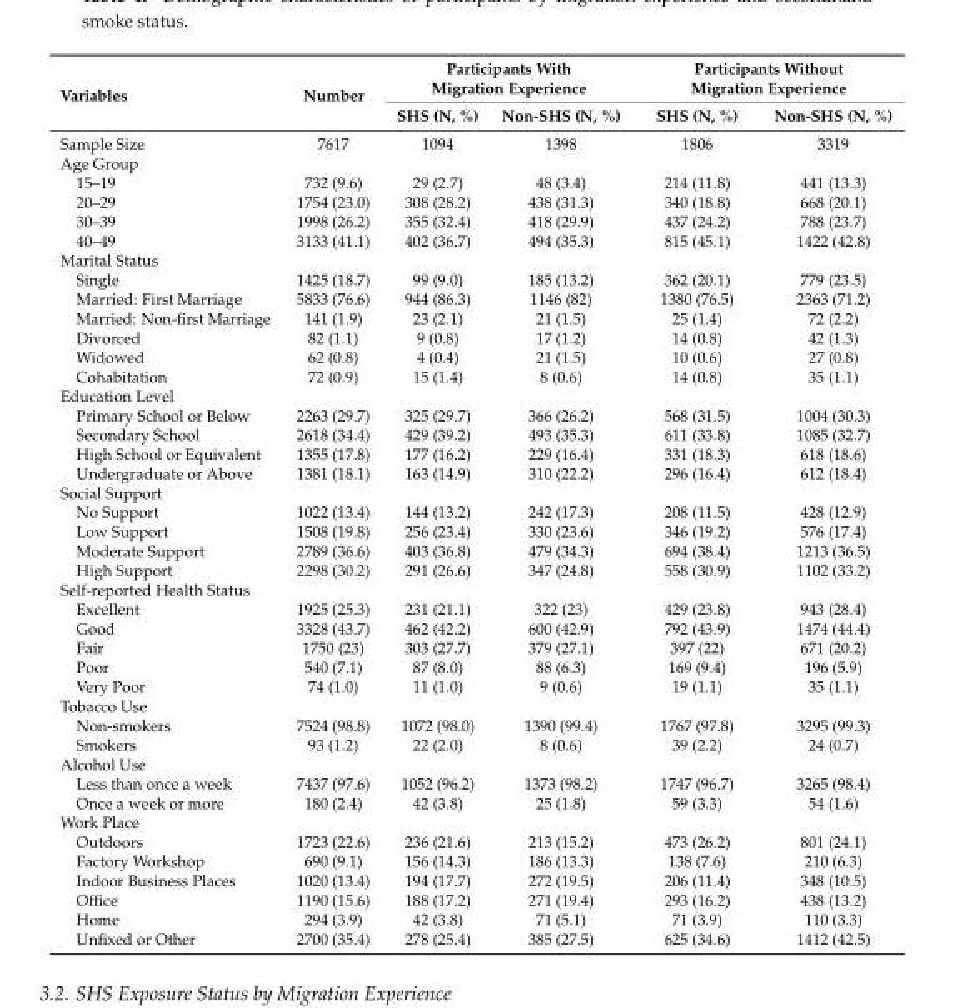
<table><thead><tr><td rowspan="2">Variables</td><td rowspan="2">Number</td><td colspan="2">Participants With Migration Experience</td><td colspan="2">Participants Without Migration Experience</td></tr><tr><td>SHS (N, %)</td><td>Non-SHS (N, %)</td><td>SHS (N, %)</td><td>Non-SHS (N, %)</td></tr></thead><tbody><tr><td>Sample Size</td><td>7617</td><td>1094</td><td>1398</td><td>1806</td><td>3319</td></tr><tr><td colspan="6">Age Group</td></tr><tr><td>15–19</td><td>732 (9.6)</td><td>29 (2.7)</td><td>48 (3.4)</td><td>214 (11.8)</td><td>441 (13.3)</td></tr><tr><td>20–29</td><td>1754 (23.0)</td><td>308 (28.2)</td><td>438 (31.3)</td><td>340 (18.8)</td><td>668 (20.1)</td></tr><tr><td>30–39</td><td>1998 (26.2)</td><td>355 (32.4)</td><td>418 (29.9)</td><td>437 (24.2)</td><td>788 (23.7)</td></tr><tr><td>40–49</td><td>3133 (41.1)</td><td>402 (36.7)</td><td>494 (35.3)</td><td>815 (45.1)</td><td>1422 (42.8)</td></tr><tr><td colspan="6">Marital Status</td></tr><tr><td>Single</td><td>1425 (18.7)</td><td>99 (9.0)</td><td>185 (13.2)</td><td>362 (20.1)</td><td>779 (23.5)</td></tr><tr><td>Married: First Marriage</td><td>5833 (76.6)</td><td>944 (86.3)</td><td>1146 (82)</td><td>1380 (76.5)</td><td>2363 (71.2)</td></tr><tr><td>Married: Non-first Marriage</td><td>141 (1.9)</td><td>23 (2.1)</td><td>21 (1.5)</td><td>25 (1.4)</td><td>72 (2.2)</td></tr><tr><td>Divorced</td><td>82 (1.1)</td><td>9 (0.8)</td><td>17 (1.2)</td><td>14 (0.8)</td><td>42 (1.3)</td></tr><tr><td>Widowed</td><td>62 (0.8)</td><td>4 (0.4)</td><td>21 (1.5)</td><td>10 (0.6)</td><td>27 (0.8)</td></tr><tr><td>Cohabitation</td><td>72 (0.9)</td><td>15 (1.4)</td><td>8 (0.6)</td><td>14 (0.8)</td><td>35 (1.1)</td></tr><tr><td colspan="6">Education Level</td></tr><tr><td>Primary School or Below</td><td>2263 (29.7)</td><td>325 (29.7)</td><td>366 (26.2)</td><td>568 (31.5)</td><td>1004 (30.3)</td></tr><tr><td>Secondary School</td><td>2618 (34.4)</td><td>429 (39.2)</td><td>493 (35.3)</td><td>611 (33.8)</td><td>1085 (32.7)</td></tr><tr><td>High School or Equivalent</td><td>1355 (17.8)</td><td>177 (16.2)</td><td>229 (16.4)</td><td>331 (18.3)</td><td>618 (18.6)</td></tr><tr><td>Undergraduate or Above</td><td>1381 (18.1)</td><td>163 (14.9)</td><td>310 (22.2)</td><td>296 (16.4)</td><td>612 (18.4)</td></tr><tr><td colspan="6">Social Support</td></tr><tr><td>No Support</td><td>1022 (13.4)</td><td>144 (13.2)</td><td>242 (17.3)</td><td>208 (11.5)</td><td>428 (12.9)</td></tr><tr><td>Low Support</td><td>1508 (19.8)</td><td>256 (23.4)</td><td>330 (23.6)</td><td>346 (19.2)</td><td>576 (17.4)</td></tr><tr><td>Moderate Support</td><td>2789 (36.6)</td><td>403 (36.8)</td><td>479 (34.3)</td><td>694 (38.4)</td><td>1213 (36.5)</td></tr><tr><td>High Support</td><td>2298 (30.2)</td><td>291 (26.6)</td><td>347 (24.8)</td><td>558 (30.9)</td><td>1102 (33.2)</td></tr><tr><td colspan="6">Self-reported Health Status</td></tr><tr><td>Excellent</td><td>1925 (25.3)</td><td>231 (21.1)</td><td>322 (23)</td><td>429 (23.8)</td><td>943 (28.4)</td></tr><tr><td>Good</td><td>3328 (43.7)</td><td>462 (42.2)</td><td>600 (42.9)</td><td>792 (43.9)</td><td>1474 (44.4)</td></tr><tr><td>Fair</td><td>1750 (23)</td><td>303 (27.7)</td><td>379 (27.1)</td><td>397 (22)</td><td>671 (20.2)</td></tr><tr><td>Poor</td><td>540 (7.1)</td><td>87 (8.0)</td><td>88 (6.3)</td><td>169 (9.4)</td><td>196 (5.9)</td></tr><tr><td>Very Poor</td><td>74 (1.0)</td><td>11 (1.0)</td><td>9 (0.6)</td><td>19 (1.1)</td><td>35 (1.1)</td></tr><tr><td colspan="6">Tobacco Use</td></tr><tr><td>Non-smokers</td><td>7524 (98.8)</td><td>1072 (98.0)</td><td>1390 (99.4)</td><td>1767 (97.8)</td><td>3295 (99.3)</td></tr><tr><td>Smokers</td><td>93 (1.2)</td><td>22 (2.0)</td><td>8 (0.6)</td><td>39 (2.2)</td><td>24 (0.7)</td></tr><tr><td colspan="6">Alcohol Use</td></tr><tr><td>Less than once a week</td><td>7437 (97.6)</td><td>1052 (96.2)</td><td>1373 (98.2)</td><td>1747 (96.7)</td><td>3265 (98.4)</td></tr><tr><td>Once a week or more</td><td>180 (2.4)</td><td>42 (3.8)</td><td>25 (1.8)</td><td>59 (3.3)</td><td>54 (1.6)</td></tr><tr><td colspan="6">Work Place</td></tr><tr><td>Outdoors</td><td>1723 (22.6)</td><td>236 (21.6)</td><td>213 (15.2)</td><td>473 (26.2)</td><td>801 (24.1)</td></tr><tr><td>Factory Workshop</td><td>690 (9.1)</td><td>156 (14.3)</td><td>186 (13.3)</td><td>138 (7.6)</td><td>210 (6.3)</td></tr><tr><td>Indoor Business Places</td><td>1020 (13.4)</td><td>194 (17.7)</td><td>272 (19.5)</td><td>206 (11.4)</td><td>348 (10.5)</td></tr><tr><td>Office</td><td>1190 (15.6)</td><td>188 (17.2)</td><td>271 (19.4)</td><td>293 (16.2)</td><td>438 (13.2)</td></tr><tr><td>Home</td><td>294 (3.9)</td><td>42 (3.8)</td><td>71 (5.1)</td><td>71 (3.9)</td><td>110 (3.3)</td></tr><tr><td>Unfixed or Other</td><td>2700 (35.4)</td><td>278 (25.4)</td><td>385 (27.5)</td><td>625 (34.6)</td><td>1412 (42.5)</td></tr></tbody></table>